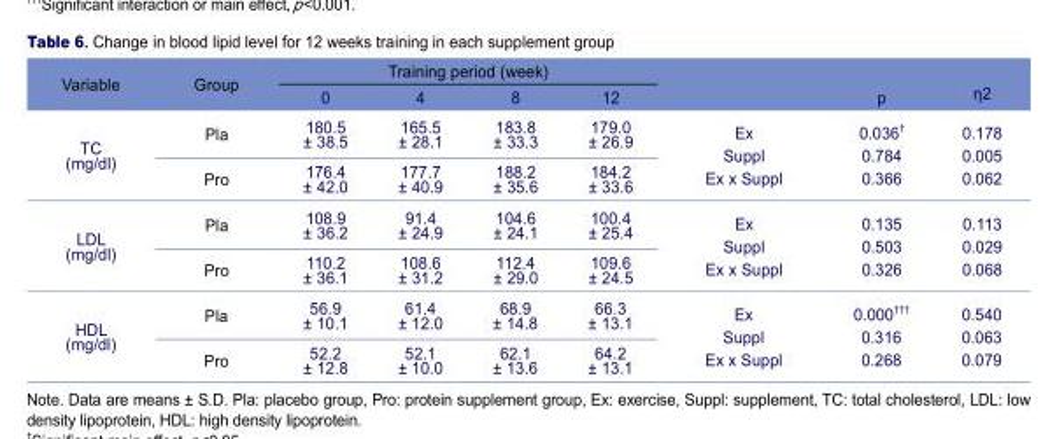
<table><thead><tr><td rowspan="2">Variable</td><td rowspan="2">Group</td><td colspan="4">Training period (week)</td><td rowspan="2"></td><td rowspan="2">p</td><td rowspan="2">η<sup>2</sup></td></tr><tr><td>0</td><td>4</td><td>8</td><td>12</td></tr></thead><tbody><tr><td rowspan="2">TC (mg/dl)</td><td>Pla</td><td>180.5 ± 38.5</td><td>165.5 ± 28.1</td><td>183.8 ± 33.3</td><td>179.0 ± 26.9</td><td rowspan="2">Ex Suppl Ex x Suppl</td><td rowspan="2">0.036 <sup>†</sup> 0.784 0.366</td><td rowspan="2">0.178 0.005 0.062</td></tr><tr><td>Pro</td><td>176.4 ± 42.0</td><td>177.7 ± 40.9</td><td>188.2 ± 35.6</td><td>184.2 ± 33.6</td></tr><tr><td rowspan="2">LDL (mg/dl)</td><td>Pla</td><td>108.9 ± 36.2</td><td>91.4 ± 24.9</td><td>104.6 ± 24.1</td><td>100.4 ± 25.4</td><td rowspan="2">Ex Suppl Ex x Suppl</td><td rowspan="2">0.135 0.503 0.326</td><td rowspan="2">0.113 0.029 0.068</td></tr><tr><td>Pro</td><td>110.2 ± 36.1</td><td>108.6 ± 31.2</td><td>112.4 ± 29.0</td><td>109.6 ± 24.5</td></tr><tr><td rowspan="2">HDL (mg/dl)</td><td>Pla</td><td>56.9 ± 10.1</td><td>61.4 ± 12.0</td><td>68.9 ± 14.8</td><td>66.3 ± 13.1</td><td rowspan="2">Ex Suppl Ex x Suppl</td><td rowspan="2">0.000 <sup>†††</sup> 0.316 0.268</td><td rowspan="2">0.540 0.063 0.079</td></tr><tr><td>Pro</td><td>52.2 ± 12.8</td><td>52.1 ± 10.0</td><td>62.1 ± 13.6</td><td>64.2 ± 13.1</td></tr></tbody></table>